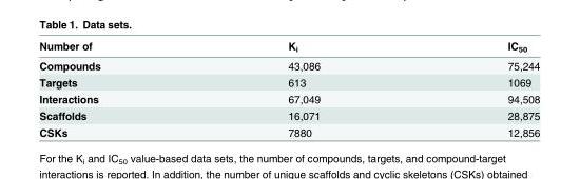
<table><thead><tr><td>Number of</td><td>K<sub>i</sub></td><td>IC<sub>50</sub></td></tr></thead><tbody><tr><td>Compounds</td><td>43,086</td><td>75,244</td></tr><tr><td>Targets</td><td>613</td><td>1069</td></tr><tr><td>Interactions</td><td>67,049</td><td>94,508</td></tr><tr><td>Scaffolds</td><td>16,071</td><td>28,875</td></tr><tr><td>CSKs</td><td>7880</td><td>12,856</td></tr></tbody></table>